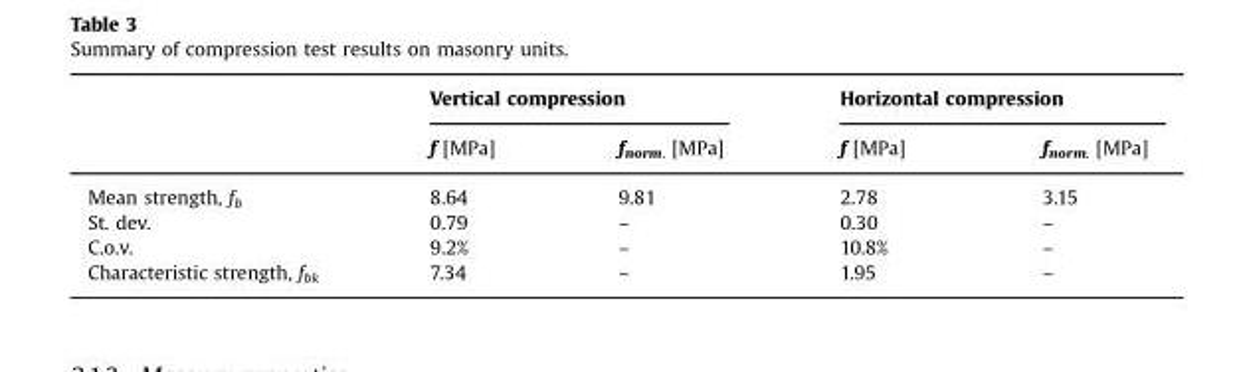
<table><thead><tr><td rowspan="2"></td><td colspan="2">Vertical compression</td><td colspan="2">Horizontal compression</td></tr><tr><td>f [MPa]</td><td>f<sub>norm.</sub> [MPa]</td><td>f [MPa]</td><td>f<sub>norm.</sub> [MPa]</td></tr></thead><tbody><tr><td>Mean strength, f<sub>b</sub></td><td>8.64</td><td>9.81</td><td>2.78</td><td>3.15</td></tr><tr><td>St. dev.</td><td>0.79</td><td>–</td><td>0.30</td><td>–</td></tr><tr><td>C.o.v.</td><td>9.2%</td><td>–</td><td>10.8%</td><td>–</td></tr><tr><td>Characteristic strength, f<sub>bk</sub></td><td>7.34</td><td>–</td><td>1.95</td><td>–</td></tr></tbody></table>